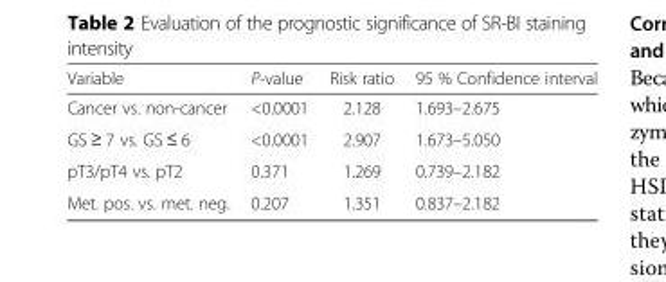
<table><thead><tr><td>Variable</td><td>P-value</td><td>Risk ratio</td><td>95 % Confidence interval</td></tr></thead><tbody><tr><td>Cancer vs. non-cancer</td><td>&lt;0.0001</td><td>2.128</td><td>1.693–2.675</td></tr><tr><td>GS ≥ 7 vs. GS ≤ 6</td><td>&lt;0.0001</td><td>2.907</td><td>1.673–5.050</td></tr><tr><td>pT3/pT4 vs. pT2</td><td>0.371</td><td>1.269</td><td>0.739–2.182</td></tr><tr><td>Met. pos. vs. met. neg.</td><td>0.207</td><td>1.351</td><td>0.837–2.182</td></tr></tbody></table>